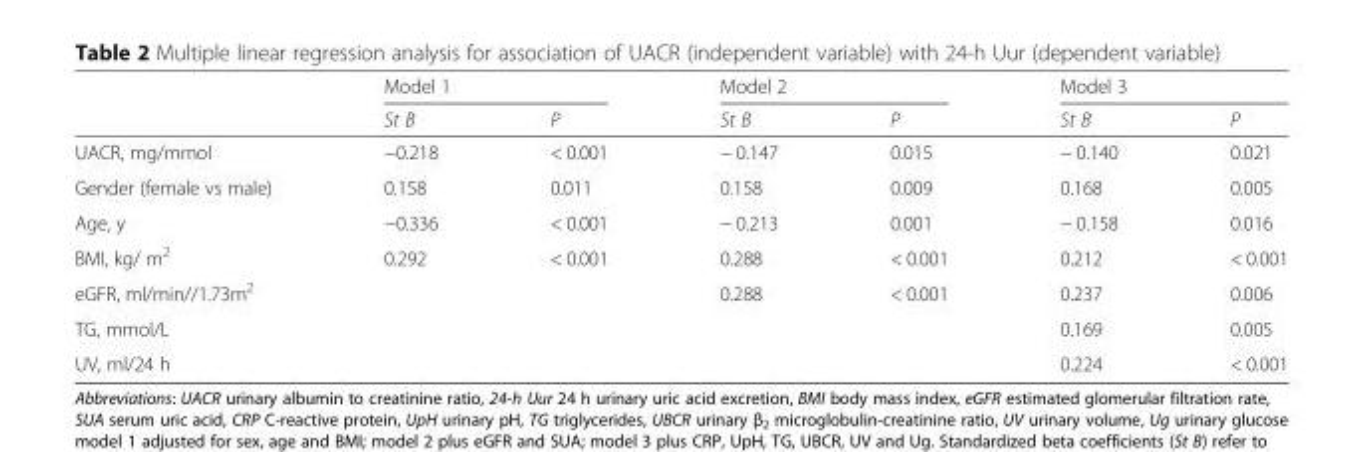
<table><thead><tr><td rowspan="2"></td><td colspan="2">Model 1</td><td colspan="2">Model 2</td><td colspan="2">Model 3</td></tr><tr><td>St B</td><td>P</td><td>St B</td><td>P</td><td>St B</td><td>P</td></tr></thead><tbody><tr><td>UACR, mg/mmol</td><td>−0.218</td><td>&lt; 0.001</td><td>− 0.147</td><td>0.015</td><td>− 0.140</td><td>0.021</td></tr><tr><td>Gender (female vs male)</td><td>0.158</td><td>0.011</td><td>0.158</td><td>0.009</td><td>0.168</td><td>0.005</td></tr><tr><td>Age, y</td><td>−0.336</td><td>&lt; 0.001</td><td>− 0.213</td><td>0.001</td><td>− 0.158</td><td>0.016</td></tr><tr><td>BMI, kg/ m<sup>2</sup></td><td>0.292</td><td>&lt; 0.001</td><td>0.288</td><td>&lt; 0.001</td><td>0.212</td><td>&lt; 0.001</td></tr><tr><td>eGFR, ml/min//1.73m<sup>2</sup></td><td></td><td></td><td>0.288</td><td>&lt; 0.001</td><td>0.237</td><td>0.006</td></tr><tr><td>TG, mmol/L</td><td></td><td></td><td></td><td></td><td>0.169</td><td>0.005</td></tr><tr><td>UV, ml/24 h</td><td></td><td></td><td></td><td></td><td>0.224</td><td>&lt; 0.001</td></tr></tbody></table>